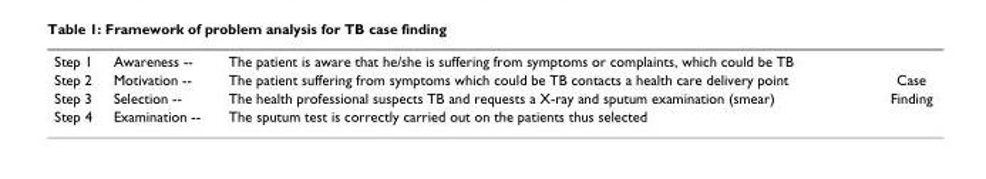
<table><tbody><tr><td>Step 1</td><td>Awareness --</td><td>The patient is aware that he/she is suffering from symptoms or complaints, which could be TB</td><td></td></tr><tr><td>Step 2</td><td>Motivation --</td><td>The patient suffering from symptoms which could be TB contacts a health care delivery point</td><td>Case</td></tr><tr><td>Step 3</td><td>Selection --</td><td>The health professional suspects TB and requests a X-ray and sputum examination (smear)</td><td>Finding</td></tr><tr><td>Step 4</td><td>Examination --</td><td>The sputum test is correctly carried out on the patients thus selected</td><td></td></tr></tbody></table>